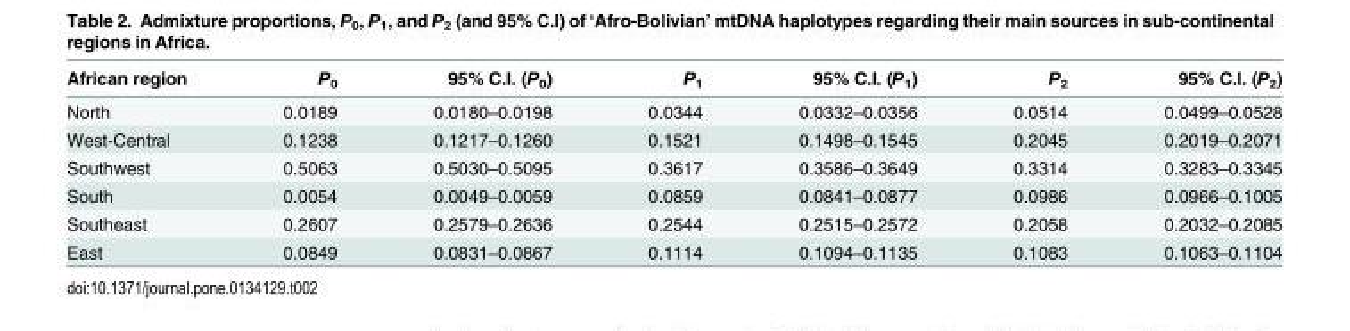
<table><thead><tr><td>African region</td><td>P<sub>0</sub></td><td>95% C.I. (P<sub>0</sub>)</td><td>P<sub>1</sub></td><td>95% C.I. (P<sub>1</sub>)</td><td>P<sub>2</sub></td><td>95% C.I. (P<sub>2</sub>)</td></tr></thead><tbody><tr><td>North</td><td>0.0189</td><td>0.0180–0.0198</td><td>0.0344</td><td>0.0332–0.0356</td><td>0.0514</td><td>0.0499–0.0528</td></tr><tr><td>West-Central</td><td>0.1238</td><td>0.1217–0.1260</td><td>0.1521</td><td>0.1498–0.1545</td><td>0.2045</td><td>0.2019–0.2071</td></tr><tr><td>Southwest</td><td>0.5063</td><td>0.5030–0.5095</td><td>0.3617</td><td>0.3586–0.3649</td><td>0.3314</td><td>0.3283–0.3345</td></tr><tr><td>South</td><td>0.0054</td><td>0.0049–0.0059</td><td>0.0859</td><td>0.0841–0.0877</td><td>0.0986</td><td>0.0966–0.1005</td></tr><tr><td>Southeast</td><td>0.2607</td><td>0.2579–0.2636</td><td>0.2544</td><td>0.2515–0.2572</td><td>0.2058</td><td>0.2032–0.2085</td></tr><tr><td>East</td><td>0.0849</td><td>0.0831–0.0867</td><td>0.1114</td><td>0.1094–0.1135</td><td>0.1083</td><td>0.1063–0.1104</td></tr></tbody></table>